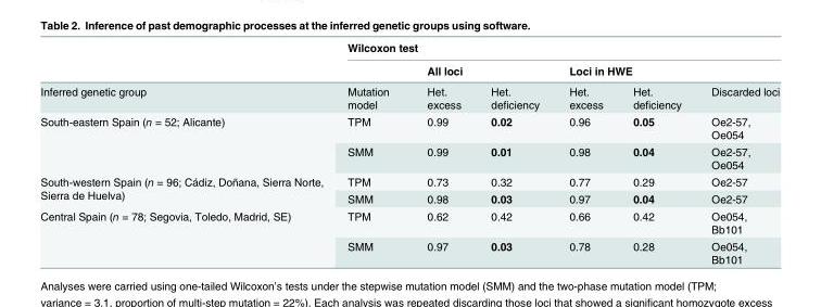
<table><thead><tr><td rowspan="3">Inferred genetic group</td><td colspan="6">Wilcoxon test</td></tr><tr><td rowspan="2">Mutation model</td><td colspan="2">All loci</td><td colspan="3">Loci in HWE</td></tr><tr><td>Het. excess</td><td>Het. deficiency</td><td>Het. excess</td><td>Het. deficiency</td><td>Discarded loci</td></tr></thead><tbody><tr><td rowspan="2">South-eastern Spain (n = 52; Alicante)</td><td>TPM</td><td>0.99</td><td>0.02</td><td>0.96</td><td>0.05</td><td>Oe2-57, Oe054</td></tr><tr><td>SMM</td><td>0.99</td><td>0.01</td><td>0.98</td><td>0.04</td><td>Oe2-57, Oe054</td></tr><tr><td rowspan="2">South-western Spain (n = 96; Cádiz, Doñana, Sierra Norte, Sierra de Huelva)</td><td>TPM</td><td>0.73</td><td>0.32</td><td>0.77</td><td>0.29</td><td>Oe2-57</td></tr><tr><td>SMM</td><td>0.98</td><td>0.03</td><td>0.97</td><td>0.04</td><td>Oe2-57</td></tr><tr><td rowspan="2">Central Spain (n = 78; Segovia, Toledo, Madrid, SE)</td><td>TPM</td><td>0.62</td><td>0.42</td><td>0.66</td><td>0.42</td><td>Oe054, Bb101</td></tr><tr><td>SMM</td><td>0.97</td><td>0.03</td><td>0.78</td><td>0.28</td><td>Oe054, Bb101</td></tr></tbody></table>